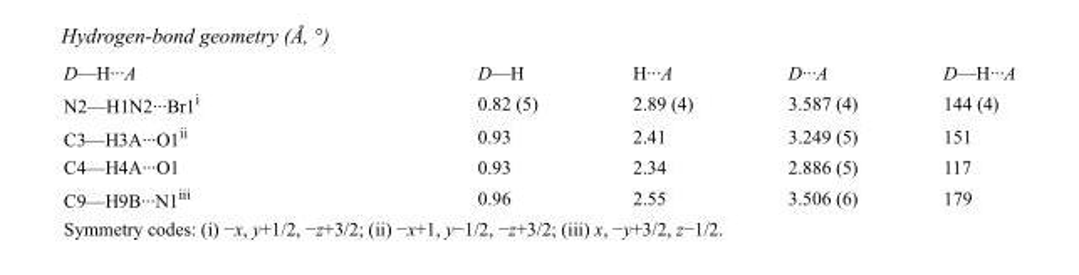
<table><tbody><tr><td>D—H···A</td><td>D—H</td><td>H···A</td><td>D···A</td><td>D—H···A</td></tr><tr><td>N2—H1N2···Br1<sup>i</sup></td><td>0.82 (5)</td><td>2.89 (4)</td><td>3.587 (4)</td><td>144 (4)</td></tr><tr><td>C3—H3A···O1<sup>ii</sup></td><td>0.93</td><td>2.41</td><td>3.249 (5)</td><td>151</td></tr><tr><td>C4—H4A···O1</td><td>0.93</td><td>2.34</td><td>2.886 (5)</td><td>117</td></tr><tr><td>C9—H9B···N1<sup>iii</sup></td><td>0.96</td><td>2.55</td><td>3.506 (6)</td><td>179</td></tr></tbody></table>